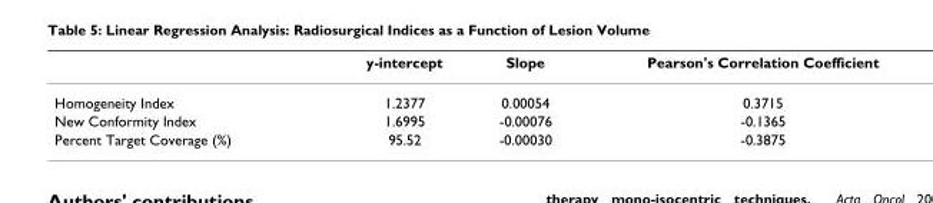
<table><thead><tr><td></td><td>y-intercept</td><td>Slope</td><td>Pearson&#x27;s Correlation Coefficient</td></tr></thead><tbody><tr><td>Homogeneity Index</td><td>1.2377</td><td>0.00054</td><td>0.3715</td></tr><tr><td>New Conformity Index</td><td>1.6995</td><td>-0.00076</td><td>-0.1365</td></tr><tr><td>Percent Target Coverage (%)</td><td>95.52</td><td>-0.00030</td><td>-0.3875</td></tr></tbody></table>